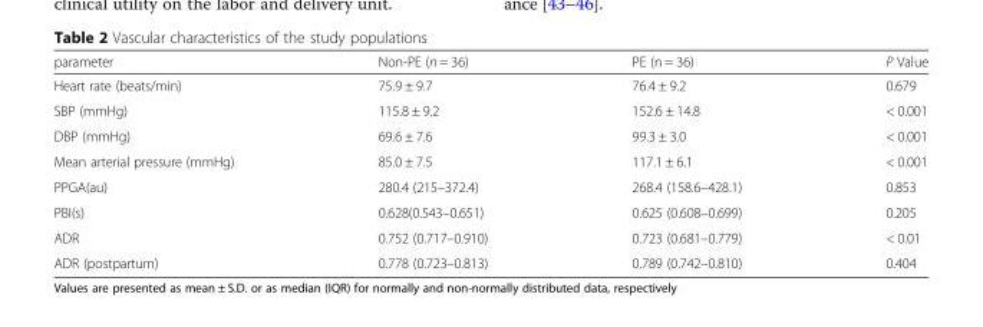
<table><thead><tr><td>parameter</td><td>Non-PE (n = 36)</td><td>PE (n = 36)</td><td>P Value</td></tr></thead><tbody><tr><td>Heart rate (beats/min)</td><td>75.9 ± 9.7</td><td>76.4 ± 9.2</td><td>0.679</td></tr><tr><td>SBP (mmHg)</td><td>115.8 ± 9.2</td><td>152.6 ± 14.8</td><td>&lt; 0.001</td></tr><tr><td>DBP (mmHg)</td><td>69.6 ± 7.6</td><td>99.3 ± 3.0</td><td>&lt; 0.001</td></tr><tr><td>Mean arterial pressure (mmHg)</td><td>85.0 ± 7.5</td><td>117.1 ± 6.1</td><td>&lt; 0.001</td></tr><tr><td>PPGA(au)</td><td>280.4 (215–372.4)</td><td>268.4 (158.6–428.1)</td><td>0.853</td></tr><tr><td>PBI(s)</td><td>0.628(0.543–0.651)</td><td>0.625 (0.608–0.699)</td><td>0.205</td></tr><tr><td>ADR</td><td>0.752 (0.717–0.910)</td><td>0.723 (0.681–0.779)</td><td>&lt; 0.01</td></tr><tr><td>ADR (postpartum)</td><td>0.778 (0.723–0.813)</td><td>0.789 (0.742–0.810)</td><td>0.404</td></tr></tbody></table>